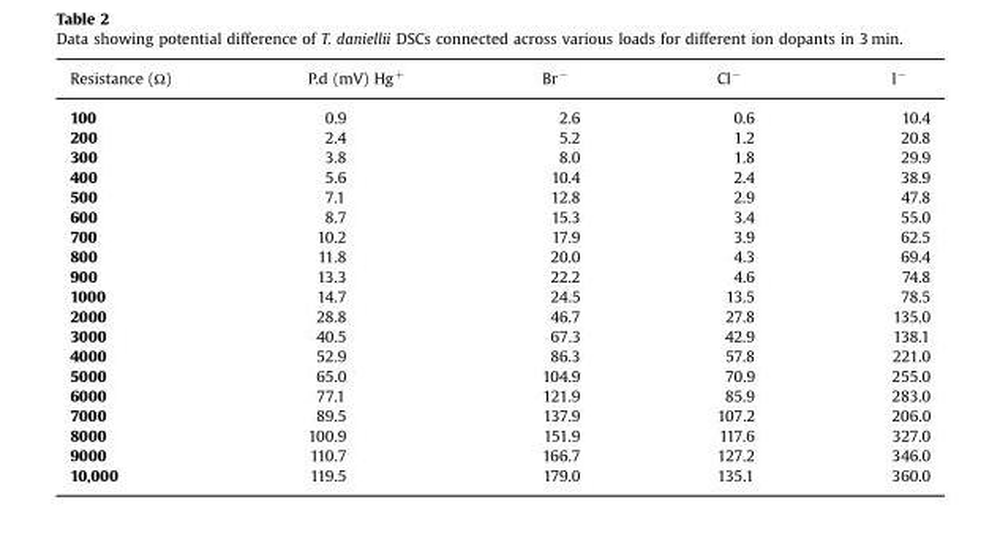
<table><thead><tr><td>Resistance (Ω)</td><td>P.d (mV) Hg<sup>+</sup></td><td>Br<sup>−</sup></td><td>Cl<sup>−</sup></td><td>l<sup>−</sup></td></tr></thead><tbody><tr><td>100</td><td>0.9</td><td>2.6</td><td>0.6</td><td>10.4</td></tr><tr><td>200</td><td>2.4</td><td>5.2</td><td>1.2</td><td>20.8</td></tr><tr><td>300</td><td>3.8</td><td>8.0</td><td>1.8</td><td>29.9</td></tr><tr><td>400</td><td>5.6</td><td>10.4</td><td>2.4</td><td>38.9</td></tr><tr><td>500</td><td>7.1</td><td>12.8</td><td>2.9</td><td>47.8</td></tr><tr><td>600</td><td>8.7</td><td>15.3</td><td>3.4</td><td>55.0</td></tr><tr><td>700</td><td>10.2</td><td>17.9</td><td>3.9</td><td>62.5</td></tr><tr><td>800</td><td>11.8</td><td>20.0</td><td>4.3</td><td>69.4</td></tr><tr><td>900</td><td>13.3</td><td>22.2</td><td>4.6</td><td>74.8</td></tr><tr><td>1000</td><td>14.7</td><td>24.5</td><td>13.5</td><td>78.5</td></tr><tr><td>2000</td><td>28.8</td><td>46.7</td><td>27.8</td><td>135.0</td></tr><tr><td>3000</td><td>40.5</td><td>67.3</td><td>42.9</td><td>138.1</td></tr><tr><td>4000</td><td>52.9</td><td>86.3</td><td>57.8</td><td>221.0</td></tr><tr><td>5000</td><td>65.0</td><td>104.9</td><td>70.9</td><td>255.0</td></tr><tr><td>6000</td><td>77.1</td><td>121.9</td><td>85.9</td><td>283.0</td></tr><tr><td>7000</td><td>89.5</td><td>137.9</td><td>107.2</td><td>206.0</td></tr><tr><td>8000</td><td>100.9</td><td>151.9</td><td>117.6</td><td>327.0</td></tr><tr><td>9000</td><td>110.7</td><td>166.7</td><td>127.2</td><td>346.0</td></tr><tr><td>10,000</td><td>119.5</td><td>179.0</td><td>135.1</td><td>360.0</td></tr></tbody></table>